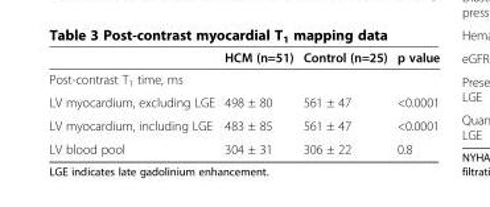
<table><thead><tr><td></td><td>HCM (n=51)</td><td>Control (n=25)</td><td>p value</td></tr></thead><tbody><tr><td colspan="4">Post-contrast T<sub>1</sub> time, ms</td></tr><tr><td>LV myocardium, excluding LGE</td><td>498 ± 80</td><td>561 ± 47</td><td>&lt;0.0001</td></tr><tr><td>LV myocardium, including LGE</td><td>483 ± 85</td><td>561 ± 47</td><td>&lt;0.0001</td></tr><tr><td>LV blood pool</td><td>304 ± 31</td><td>306 ± 22</td><td>0.8</td></tr></tbody></table>